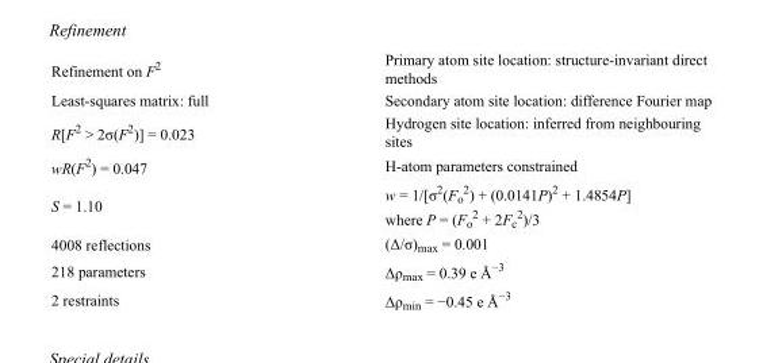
<table><tbody><tr><td>Refinement on F<sup>2</sup></td><td>Primary atom site location: structure-invariant direct methods</td></tr><tr><td>Least-squares matrix: full</td><td>Secondary atom site location: difference Fourier map</td></tr><tr><td>R[F<sup>2</sup> &gt; 2σ(F<sup>2</sup>)] = 0.023</td><td>Hydrogen site location: inferred from neighbouring sites</td></tr><tr><td>wR(F<sup>2</sup>) = 0.047</td><td>H-atom parameters constrained</td></tr><tr><td>S = 1.10</td><td>w = 1/[σ<sup>2</sup>(F<sub>o</sub> <sup>2</sup>) + (0.0141P)<sup>2</sup> + 1.4854P] where P = (F<sub>o</sub> <sup>2</sup> + 2F<sub>c</sub> <sup>2</sup>)/3</td></tr><tr><td>4008 reflections</td><td>(Δ/σ)<sub>max</sub> = 0.001</td></tr><tr><td>218 parameters</td><td>Δρ<sub>max</sub> = 0.39 e Å<sup>−3</sup></td></tr><tr><td>2 restraints</td><td>Δρ<sub>min</sub> = −0.45 e Å<sup>−3</sup></td></tr></tbody></table>